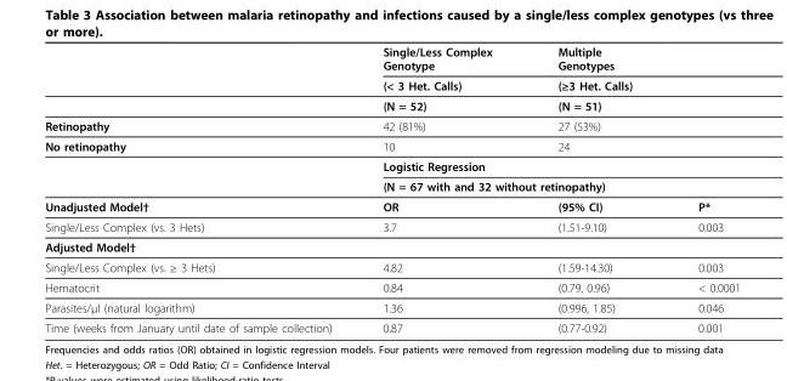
<table><thead><tr><td rowspan="2"></td><td rowspan="2">Single/Less Complex Genotype (&lt; 3 Het. Calls)</td><td rowspan="2">Multiple Genotypes (≥3 Het. Calls)</td><td rowspan="2"></td></tr><tr></tr></thead><tbody><tr><td></td><td>(N = 52)</td><td>(N = 51)</td><td></td></tr><tr><td>Retinopathy</td><td>42 (81%)</td><td>27 (53%)</td><td></td></tr><tr><td rowspan="3">No retinopathy</td><td>10</td><td>24</td><td></td></tr><tr><td>Logistic Regression</td><td></td><td></td></tr><tr><td colspan="2">(N = 67 with and 32 without retinopathy)</td><td></td></tr><tr><td>Unadjusted Model†</td><td>OR</td><td>(95% CI)</td><td>P*</td></tr><tr><td>Single/Less Complex (vs. 3 Hets)</td><td>3.7</td><td>(1.51-9.10)</td><td>0.003</td></tr><tr><td colspan="4">Adjusted Model†</td></tr><tr><td>Single/Less Complex (vs. ≥ 3 Hets)</td><td>4.82</td><td>(1.59-14.30)</td><td>0.003</td></tr><tr><td>Hematocrit</td><td>0.84</td><td>(0.79, 0.96)</td><td>&lt; 0.0001</td></tr><tr><td>Parasites/μl (natural logarithm)</td><td>1.36</td><td>(0.996, 1.85)</td><td>0.046</td></tr><tr><td>Time (weeks from January until date of sample collection)</td><td>0.87</td><td>(0.77-0.92)</td><td>0.001</td></tr></tbody></table>